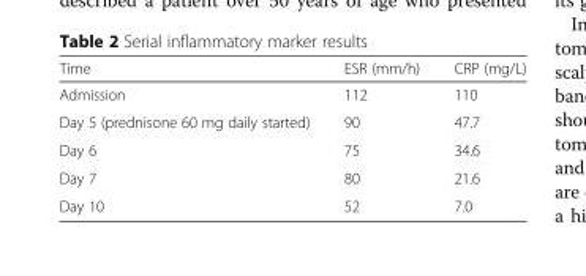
<table><thead><tr><td>Time</td><td>ESR (mm/h)</td><td>CRP (mg/L)</td></tr></thead><tbody><tr><td>Admission</td><td>112</td><td>110</td></tr><tr><td>Day 5 (prednisone 60 mg daily started)</td><td>90</td><td>47.7</td></tr><tr><td>Day 6</td><td>75</td><td>34.6</td></tr><tr><td>Day 7</td><td>80</td><td>21.6</td></tr><tr><td>Day 10</td><td>52</td><td>7.0</td></tr></tbody></table>